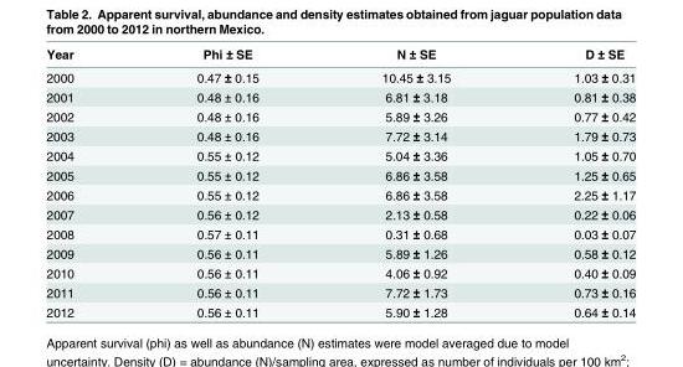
<table><thead><tr><td>Year</td><td>Phi ± SE</td><td>N ± SE</td><td>D ± SE</td></tr></thead><tbody><tr><td>2000</td><td>0.47 ± 0.15</td><td>10.45 ± 3.15</td><td>1.03 ± 0.31</td></tr><tr><td>2001</td><td>0.48 ± 0.16</td><td>6.81 ± 3.18</td><td>0.81 ± 0.38</td></tr><tr><td>2002</td><td>0.48 ± 0.16</td><td>5.89 ± 3.26</td><td>0.77 ± 0.42</td></tr><tr><td>2003</td><td>0.48 ± 0.16</td><td>7.72 ± 3.14</td><td>1.79 ± 0.73</td></tr><tr><td>2004</td><td>0.55 ± 0.12</td><td>5.04 ± 3.36</td><td>1.05 ± 0.70</td></tr><tr><td>2005</td><td>0.55 ± 0.12</td><td>6.86 ± 3.58</td><td>1.25 ± 0.65</td></tr><tr><td>2006</td><td>0.55 ± 0.12</td><td>6.86 ± 3.58</td><td>2.25 ± 1.17</td></tr><tr><td>2007</td><td>0.56 ± 0.12</td><td>2.13 ± 0.58</td><td>0.22 ± 0.06</td></tr><tr><td>2008</td><td>0.57 ± 0.11</td><td>0.31 ± 0.68</td><td>0.03 ± 0.07</td></tr><tr><td>2009</td><td>0.56 ± 0.11</td><td>5.89 ± 1.26</td><td>0.58 ± 0.12</td></tr><tr><td>2010</td><td>0.56 ± 0.11</td><td>4.06 ± 0.92</td><td>0.40 ± 0.09</td></tr><tr><td>2011</td><td>0.56 ± 0.11</td><td>7.72 ± 1.73</td><td>0.73 ± 0.16</td></tr><tr><td>2012</td><td>0.56 ± 0.11</td><td>5.90 ± 1.28</td><td>0.64 ± 0.14</td></tr></tbody></table>